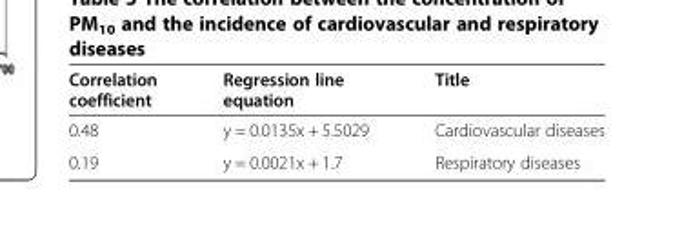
<table><thead><tr><td>Correlation coefficient</td><td>Regression line equation</td><td>Title</td></tr></thead><tbody><tr><td>0.48</td><td>y = 0.0135x + 5.5029</td><td>Cardiovascular diseases</td></tr><tr><td>0.19</td><td>y = 0.0021x + 1.7</td><td>Respiratory diseases</td></tr></tbody></table>